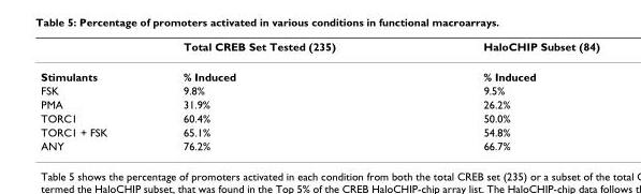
<table><thead><tr><td></td><td>Total CREB Set Tested (235)</td><td>HaloCHIP Subset (84)</td></tr></thead><tbody><tr><td>Stimulants</td><td>% Induced</td><td>% Induced</td></tr><tr><td>FSK</td><td>9.8%</td><td>9.5%</td></tr><tr><td>PMA</td><td>31.9%</td><td>26.2%</td></tr><tr><td>TORC1</td><td>60.4%</td><td>50.0%</td></tr><tr><td>TORC1 + FSK</td><td>65.1%</td><td>54.8%</td></tr><tr><td>ANY</td><td>76.2%</td><td>66.7%</td></tr></tbody></table>